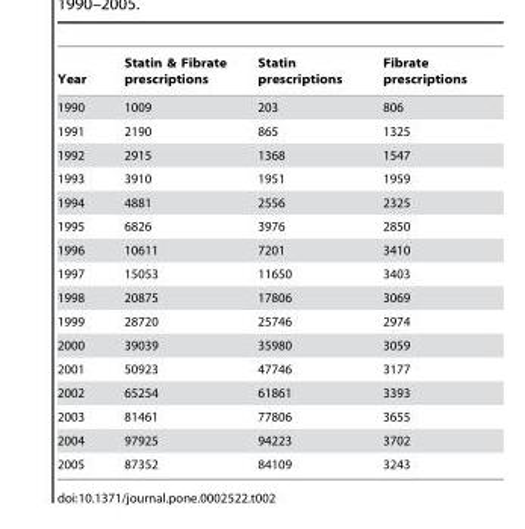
<table><thead><tr><td>Year</td><td>Statin &amp; Fibrate prescriptions</td><td>Statin prescriptions</td><td>Fibrate prescriptions</td></tr></thead><tbody><tr><td>1990</td><td>1009</td><td>203</td><td>806</td></tr><tr><td>1991</td><td>2190</td><td>865</td><td>1325</td></tr><tr><td>1992</td><td>2915</td><td>1368</td><td>1547</td></tr><tr><td>1993</td><td>3910</td><td>1951</td><td>1959</td></tr><tr><td>1994</td><td>4881</td><td>2556</td><td>2325</td></tr><tr><td>1995</td><td>6826</td><td>3976</td><td>2850</td></tr><tr><td>1996</td><td>10611</td><td>7201</td><td>3410</td></tr><tr><td>1997</td><td>15053</td><td>11650</td><td>3403</td></tr><tr><td>1998</td><td>20875</td><td>17806</td><td>3069</td></tr><tr><td>1999</td><td>28720</td><td>25746</td><td>2974</td></tr><tr><td>2000</td><td>39039</td><td>35980</td><td>3059</td></tr><tr><td>2001</td><td>50923</td><td>47746</td><td>3177</td></tr><tr><td>2002</td><td>65254</td><td>61861</td><td>3393</td></tr><tr><td>2003</td><td>81461</td><td>77806</td><td>3655</td></tr><tr><td>2004</td><td>97925</td><td>94223</td><td>3702</td></tr><tr><td>2005</td><td>87352</td><td>84109</td><td>3243</td></tr></tbody></table>